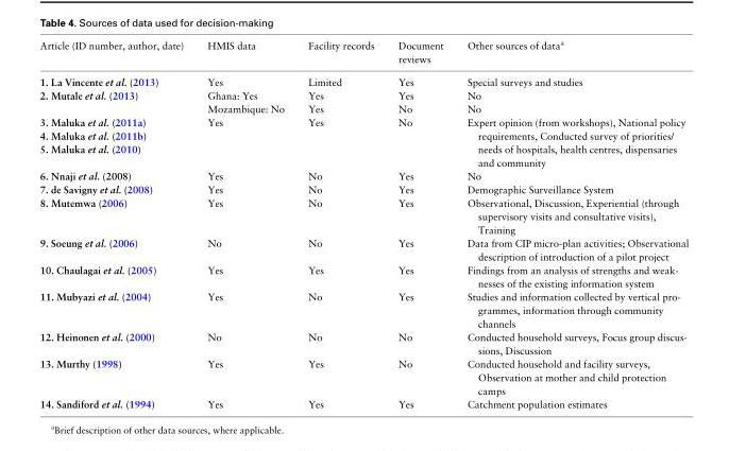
<table><thead><tr><td>Article (ID number, author, date)</td><td>HMIS data</td><td>Facility records</td><td>Document reviews</td><td>Other sources of data<sup>a</sup></td></tr></thead><tbody><tr><td>1. La Vincente et al. (2013)</td><td>Yes</td><td>Limited</td><td>Yes</td><td>Special surveys and studies</td></tr><tr><td rowspan="2">2. Mutale et al. (2013)</td><td>Ghana: Yes</td><td>Yes</td><td>Yes</td><td>No</td></tr><tr><td>Mozambique: No</td><td>Yes</td><td>No</td><td>No</td></tr><tr><td>3. Maluka et al. (2011a)</td><td rowspan="3">Yes</td><td rowspan="3">Yes</td><td rowspan="3">No</td><td rowspan="3">Expert opinion (from workshops), National policy requirements, Conducted survey of priorities/ needs of hospitals, health centres, dispensaries and community</td></tr><tr><td>4. Maluka et al. (2011b)</td></tr><tr><td>5. Maluka et al. (2010)</td></tr><tr><td>6. Nnaji et al. (2008)</td><td>Yes</td><td>No</td><td>Yes</td><td>No</td></tr><tr><td>7. de Savigny et al. (2008)</td><td>Yes</td><td>No</td><td>Yes</td><td>Demographic Surveillance System</td></tr><tr><td>8. Mutemwa (2006)</td><td>Yes</td><td>No</td><td>Yes</td><td>Observational, Discussion, Experiential (through supervisory visits and consultative visits), Training</td></tr><tr><td>9. Soeung et al. (2006)</td><td>No</td><td>No</td><td>Yes</td><td>Data from CIP micro-plan activities; Observational description of introduction of a pilot project</td></tr><tr><td>10. Chaulagai et al. (2005)</td><td>Yes</td><td>Yes</td><td>Yes</td><td>Findings from an analysis of strengths and weak- nesses of the existing information system</td></tr><tr><td>11. Mubyazi et al. (2004)</td><td>Yes</td><td>No</td><td>Yes</td><td>Studies and information collected by vertical pro- grammes, information through community channels</td></tr><tr><td>12. Heinonen et al. (2000)</td><td>No</td><td>No</td><td>No</td><td>Conducted household surveys, Focus group discus- sions, Discussion</td></tr><tr><td>13. Murthy (1998)</td><td>Yes</td><td>Yes</td><td>No</td><td>Conducted household and facility surveys, Observation at mother and child protection camps</td></tr><tr><td>14. Sandiford et al. (1994)</td><td>Yes</td><td>Yes</td><td>Yes</td><td>Catchment population estimates</td></tr></tbody></table>